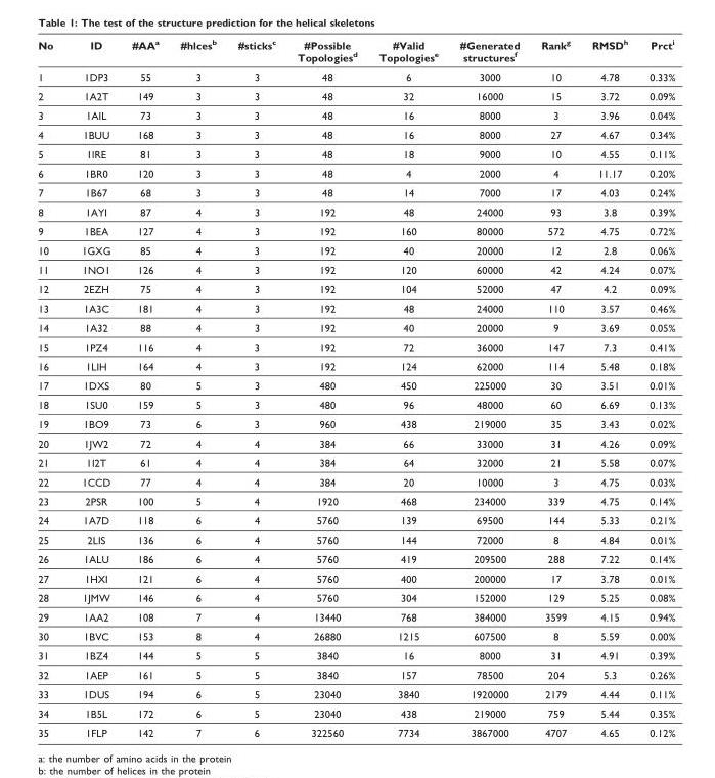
<table><thead><tr><td>No</td><td>ID</td><td>#AA<sup>a</sup></td><td>#hlces<sup>b</sup></td><td>#sticks<sup>c</sup></td><td>#Possible Topologies<sup>d</sup></td><td>#Valid Topologies<sup>e</sup></td><td>#Generated structures<sup>f</sup></td><td>Rank<sup>g</sup></td><td>RMSD<sup>h</sup></td><td>Prct<sup>i</sup></td></tr></thead><tbody><tr><td>1</td><td>1DP3</td><td>55</td><td>3</td><td>3</td><td>48</td><td>6</td><td>3000</td><td>10</td><td>4.78</td><td>0.33%</td></tr><tr><td>2</td><td>1A2T</td><td>149</td><td>3</td><td>3</td><td>48</td><td>32</td><td>16000</td><td>15</td><td>3.72</td><td>0.09%</td></tr><tr><td>3</td><td>1AIL</td><td>73</td><td>3</td><td>3</td><td>48</td><td>16</td><td>8000</td><td>3</td><td>3.96</td><td>0.04%</td></tr><tr><td>4</td><td>1BUU</td><td>168</td><td>3</td><td>3</td><td>48</td><td>16</td><td>8000</td><td>27</td><td>4.67</td><td>0.34%</td></tr><tr><td>5</td><td>1lRE</td><td>81</td><td>3</td><td>3</td><td>48</td><td>18</td><td>9000</td><td>10</td><td>4.55</td><td>0.11%</td></tr><tr><td>6</td><td>1BR0</td><td>120</td><td>3</td><td>3</td><td>48</td><td>4</td><td>2000</td><td>4</td><td>11.17</td><td>0.20%</td></tr><tr><td>7</td><td>1B67</td><td>68</td><td>3</td><td>3</td><td>48</td><td>14</td><td>7000</td><td>17</td><td>4.03</td><td>0.24%</td></tr><tr><td>8</td><td>1AYI</td><td>87</td><td>4</td><td>3</td><td>192</td><td>48</td><td>24000</td><td>93</td><td>3.8</td><td>0.39%</td></tr><tr><td>9</td><td>1BEA</td><td>127</td><td>4</td><td>3</td><td>192</td><td>160</td><td>80000</td><td>572</td><td>4.75</td><td>0.72%</td></tr><tr><td>10</td><td>1GXG</td><td>85</td><td>4</td><td>3</td><td>192</td><td>40</td><td>20000</td><td>12</td><td>2.8</td><td>0.06%</td></tr><tr><td>11</td><td>1NO1</td><td>126</td><td>4</td><td>3</td><td>192</td><td>120</td><td>60000</td><td>42</td><td>4.24</td><td>0.07%</td></tr><tr><td>12</td><td>2EZH</td><td>75</td><td>4</td><td>3</td><td>192</td><td>104</td><td>52000</td><td>47</td><td>4.2</td><td>0.09%</td></tr><tr><td>13</td><td>1A3C</td><td>181</td><td>4</td><td>3</td><td>192</td><td>48</td><td>24000</td><td>110</td><td>3.57</td><td>0.46%</td></tr><tr><td>14</td><td>1A32</td><td>88</td><td>4</td><td>3</td><td>192</td><td>40</td><td>20000</td><td>9</td><td>3.69</td><td>0.05%</td></tr><tr><td>15</td><td>1PZ4</td><td>116</td><td>4</td><td>3</td><td>192</td><td>72</td><td>36000</td><td>147</td><td>7.3</td><td>0.41%</td></tr><tr><td>16</td><td>1LIH</td><td>164</td><td>4</td><td>3</td><td>192</td><td>124</td><td>62000</td><td>114</td><td>5.48</td><td>0.18%</td></tr><tr><td>17</td><td>1DXS</td><td>80</td><td>5</td><td>3</td><td>480</td><td>450</td><td>225000</td><td>30</td><td>3.51</td><td>0.01%</td></tr><tr><td>18</td><td>1SU0</td><td>159</td><td>5</td><td>3</td><td>480</td><td>96</td><td>48000</td><td>60</td><td>6.69</td><td>0.13%</td></tr><tr><td>19</td><td>1BO9</td><td>73</td><td>6</td><td>3</td><td>960</td><td>438</td><td>219000</td><td>35</td><td>3.43</td><td>0.02%</td></tr><tr><td>20</td><td>1JW2</td><td>72</td><td>4</td><td>4</td><td>384</td><td>66</td><td>33000</td><td>31</td><td>4.26</td><td>0.09%</td></tr><tr><td>21</td><td>1I2T</td><td>61</td><td>4</td><td>4</td><td>384</td><td>64</td><td>32000</td><td>21</td><td>5.58</td><td>0.07%</td></tr><tr><td>22</td><td>1CCD</td><td>77</td><td>4</td><td>4</td><td>384</td><td>20</td><td>10000</td><td>3</td><td>4.75</td><td>0.03%</td></tr><tr><td>23</td><td>2PSR</td><td>100</td><td>5</td><td>4</td><td>1920</td><td>468</td><td>234000</td><td>339</td><td>4.75</td><td>0.14%</td></tr><tr><td>24</td><td>1A7D</td><td>118</td><td>6</td><td>4</td><td>5760</td><td>139</td><td>69500</td><td>144</td><td>5.33</td><td>0.21%</td></tr><tr><td>25</td><td>2LIS</td><td>136</td><td>6</td><td>4</td><td>5760</td><td>144</td><td>72000</td><td>8</td><td>4.84</td><td>0.01%</td></tr><tr><td>26</td><td>1ALU</td><td>186</td><td>6</td><td>4</td><td>5760</td><td>419</td><td>209500</td><td>288</td><td>7.22</td><td>0.14%</td></tr><tr><td>27</td><td>1HXI</td><td>121</td><td>6</td><td>4</td><td>5760</td><td>400</td><td>200000</td><td>17</td><td>3.78</td><td>0.01%</td></tr><tr><td>28</td><td>1JMW</td><td>146</td><td>6</td><td>4</td><td>5760</td><td>304</td><td>152000</td><td>129</td><td>5.25</td><td>0.08%</td></tr><tr><td>29</td><td>1AA2</td><td>108</td><td>7</td><td>4</td><td>13440</td><td>768</td><td>384000</td><td>3599</td><td>4.15</td><td>0.94%</td></tr><tr><td>30</td><td>1BVC</td><td>153</td><td>8</td><td>4</td><td>26880</td><td>1215</td><td>607500</td><td>8</td><td>5.59</td><td>0.00%</td></tr><tr><td>31</td><td>1BZ4</td><td>144</td><td>5</td><td>5</td><td>3840</td><td>16</td><td>8000</td><td>31</td><td>4.91</td><td>0.39%</td></tr><tr><td>32</td><td>1AEP</td><td>161</td><td>5</td><td>5</td><td>3840</td><td>157</td><td>78500</td><td>204</td><td>5.3</td><td>0.26%</td></tr><tr><td>33</td><td>1DUS</td><td>194</td><td>6</td><td>5</td><td>23040</td><td>3840</td><td>1920000</td><td>2179</td><td>4.44</td><td>0.11%</td></tr><tr><td>34</td><td>1B5L</td><td>172</td><td>6</td><td>5</td><td>23040</td><td>438</td><td>219000</td><td>759</td><td>5.44</td><td>0.35%</td></tr><tr><td>35</td><td>1FLP</td><td>142</td><td>7</td><td>6</td><td>322560</td><td>7734</td><td>3867000</td><td>4707</td><td>4.65</td><td>0.12%</td></tr></tbody></table>